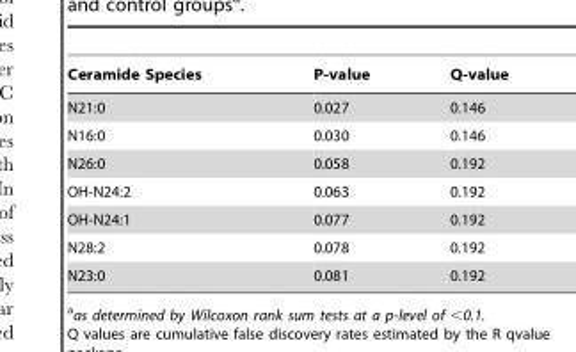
<table><thead><tr><td>Ceramide Species</td><td>P-value</td><td>Q-value</td></tr></thead><tbody><tr><td>N21:0</td><td>0.027</td><td>0.146</td></tr><tr><td>N16:0</td><td>0.030</td><td>0.146</td></tr><tr><td>N26:0</td><td>0.058</td><td>0.192</td></tr><tr><td>OH-N24:2</td><td>0.063</td><td>0.192</td></tr><tr><td>OH-N24:1</td><td>0.077</td><td>0.192</td></tr><tr><td>N28:2</td><td>0.078</td><td>0.192</td></tr><tr><td>N23:0</td><td>0.081</td><td>0.192</td></tr></tbody></table>